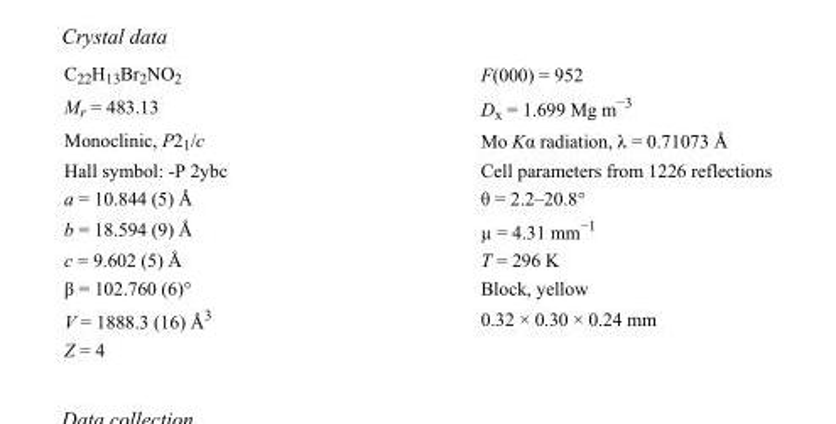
<table><tbody><tr><td>C<sub>22</sub>H<sub>13</sub>Br<sub>2</sub>NO<sub>2</sub></td><td>F(000) = 952</td></tr><tr><td>M<sub>r</sub> = 483.13</td><td>D<sub>x</sub> = 1.699 Mg m<sup>−3</sup></td></tr><tr><td>Monoclinic, P2<sub>1</sub>/c</td><td>Mo Kα radiation, λ = 0.71073 Å</td></tr><tr><td>Hall symbol: -P 2ybc</td><td>Cell parameters from 1226 reflections</td></tr><tr><td>a = 10.844 (5) Å</td><td>θ = 2.2–20.8°</td></tr><tr><td>b = 18.594 (9) Å</td><td>µ = 4.31 mm<sup>−1</sup></td></tr><tr><td>c = 9.602 (5) Å</td><td>T = 296 K</td></tr><tr><td>β = 102.760 (6)°</td><td>Block, yellow</td></tr><tr><td>V = 1888.3 (16) Å<sup>3</sup></td><td>0.32 × 0.30 × 0.24 mm</td></tr><tr><td>Z = 4</td><td></td></tr></tbody></table>